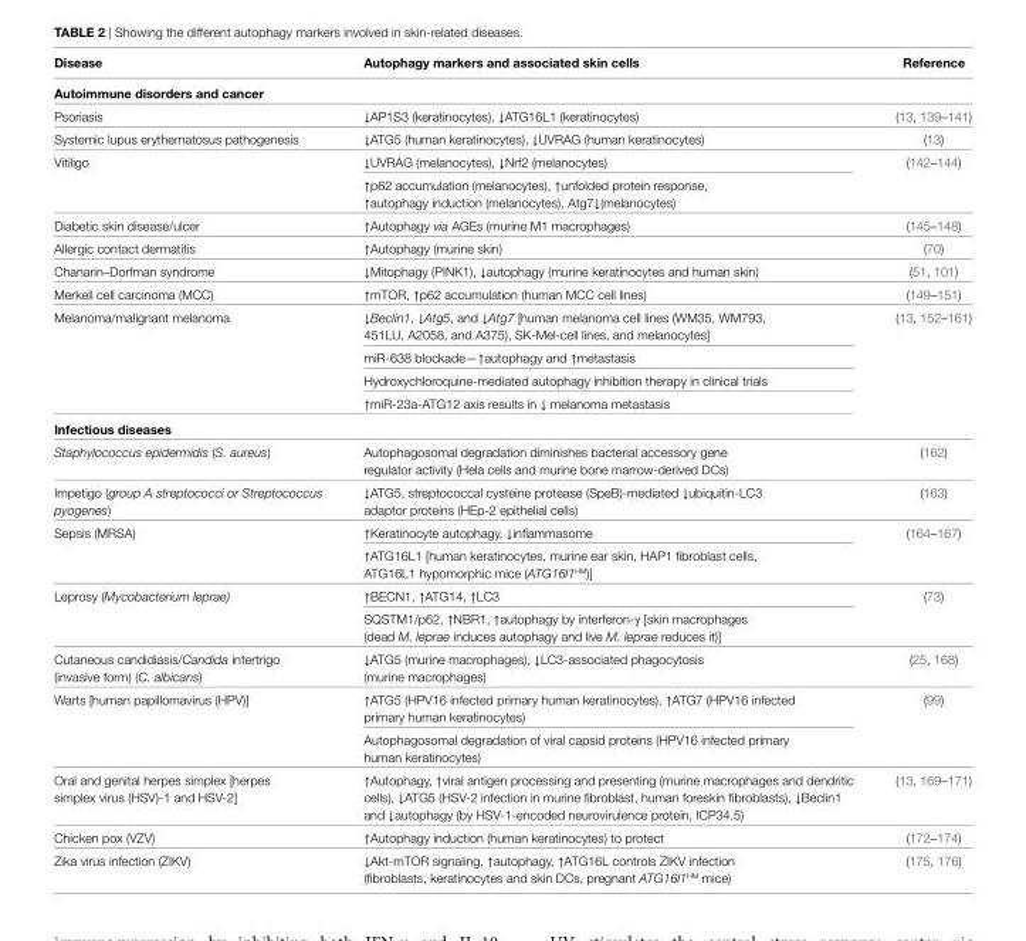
<table><thead><tr><td>Disease</td><td>Autophagy markers and associated skin cells</td><td>Reference</td></tr></thead><tbody><tr><td colspan="3">Autoimmune disorders and cancer</td></tr><tr><td>Psoriasis</td><td>↓AP1S3 (keratinocytes), ↓ATG16L1 (keratinocytes)</td><td>(13, 139–141)</td></tr><tr><td>Systemic lupus erythematosus pathogenesis</td><td>↓ATG5 (human keratinocytes), ↓UVRAG (human keratinocytes)</td><td>(13)</td></tr><tr><td rowspan="2">Vitiligo</td><td>↓UVRAG (melanocytes), ↓Nrf2 (melanocytes)</td><td>(142–144)</td></tr><tr><td>↑p62 accumulation (melanocytes), ↑unfolded protein response, ↑autophagy induction (melanocytes), Atg7↓(melanocytes)</td><td></td></tr><tr><td>Diabetic skin disease/ulcer</td><td>↑Autophagy via AGEs (murine M1 macrophages)</td><td>(145–148)</td></tr><tr><td>Allergic contact dermatitis</td><td>↑Autophagy (murine skin)</td><td>(70)</td></tr><tr><td>Chanarin–Dorfman syndrome</td><td>↓Mitophagy (PINK1), ↓autophagy (murine keratinocytes and human skin)</td><td>(51, 101)</td></tr><tr><td>Merkell cell carcinoma (MCC)</td><td>↑mTOR, ↑p62 accumulation (human MCC cell lines)</td><td>(149–151)</td></tr><tr><td rowspan="4">Melanoma/malignant melanoma</td><td>↓Beclin1, ↓Atg5, and ↓Atg7 [human melanoma cell lines (WM35, WM793, 451LU, A2058, and A375), SK-Mel-cell lines, and melanocytes]</td><td rowspan="4">(13, 152–161)</td></tr><tr><td>miR-638 blockade—↑autophagy and ↑metastasis</td></tr><tr><td>Hydroxychloroquine-mediated autophagy inhibition therapy in clinical trials</td></tr><tr><td>↑miR-23a-ATG12 axis results in ↓ melanoma metastasis</td></tr><tr><td colspan="3">infectious diseases</td></tr><tr><td>Staphylococcus epidermidis (S. aureus)</td><td>Autophagosomal degradation diminishes bacterial accessory gene regulator activity (Hela cells and murine bone marrow-derived DCs)</td><td>(162)</td></tr><tr><td>Impetigo (group A streptococci or Streptococcus pyogenes)</td><td>↓ATG5, streptococcal cysteine protease (SpeB)-mediated ↓ubiquitin-LC3 adaptor proteins (HEp-2 epithelial cells)</td><td>(163)</td></tr><tr><td rowspan="2">Sepsis (MRSA)</td><td>↑Keratinocyte autophagy, ↓inflammasome</td><td rowspan="2">(164–167)</td></tr><tr><td>↑ATG16L1 [human keratinocytes, murine ear skin, HAP1 fibroblast cells, ATG16L1 hypomorphic mice (ATG16l1<sup>HM</sup>)]</td></tr><tr><td rowspan="2">Leprosy (Mycobacterium leprae)</td><td>↑BECN1, ↑ATG14, ↑LC3</td><td rowspan="2">(73)</td></tr><tr><td>SQSTM1/p62, ↑NBR1, ↑autophagy by interferon-γ [skin macrophages (dead M. leprae induces autophagy and live M. leprae reduces it)]</td></tr><tr><td>Cutaneous candidiasis/Candida intertrigo (invasive form) (C. albicans)</td><td>↓ATG5 (murine macrophages), ↓LC3-associated phagocytosis (murine macrophages)</td><td>(25, 168)</td></tr><tr><td rowspan="2">Warts [human papillomavirus (HPV)]</td><td>↑ATG5 (HPV16 infected primary human keratinocytes), ↑ATG7 (HPV16 infected primary human keratinocytes)</td><td rowspan="2">(99)</td></tr><tr><td>Autophagosomal degradation of viral capsid proteins (HPV16 infected primary human keratinocytes)</td></tr><tr><td>Oral and genital herpes simplex [herpes simplex virus (HSV)-1 and HSV-2]</td><td>↑Autophagy, ↑viral antigen processing and presenting (murine macrophages and dendritic cells), ↓ATG5 (HSV-2 infection in murine fibroblast, human foreskin fibroblasts), ↓Beclin1 and ↓autophagy (by HSV-1-encoded neurovirulence protein, ICP34.5)</td><td>(13, 169–171)</td></tr><tr><td>Chicken pox (VZV)</td><td>↑Autophagy induction (human keratinocytes) to protect</td><td>(172–174)</td></tr><tr><td>Zika virus infection (ZIKV)</td><td>↓Akt-mTOR signaling, ↑autophagy, ↑ATG16L controls ZIKV infection (fibroblasts, keratinocytes and skin DCs, pregnant ATG16l1<sup>HM</sup> mice)</td><td>(175, 176)</td></tr></tbody></table>